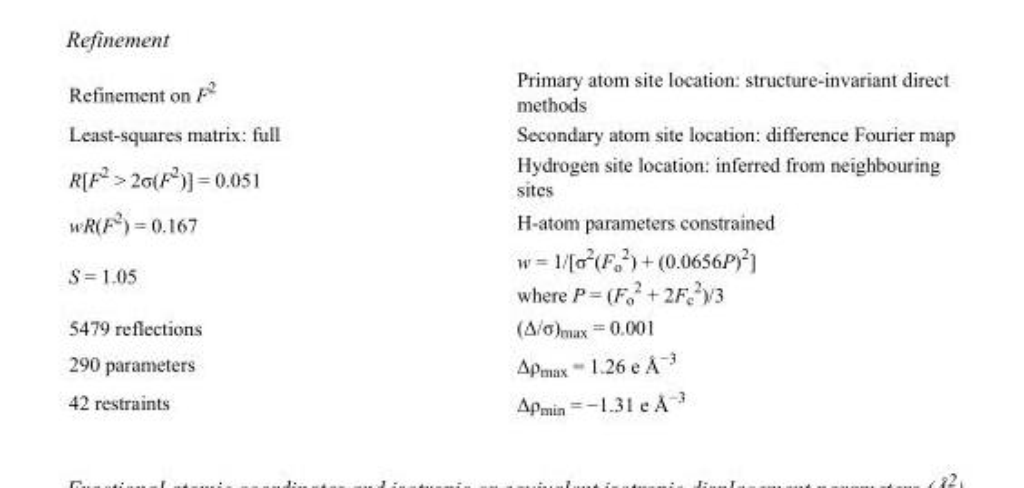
<table><tbody><tr><td>Refinement on F<sup>2</sup></td><td>Primary atom site location: structure-invariant direct methods</td></tr><tr><td>Least-squares matrix: full</td><td>Secondary atom site location: difference Fourier map</td></tr><tr><td>R[F<sup>2</sup> &gt; 2σ(F<sup>2</sup>)] = 0.051</td><td>Hydrogen site location: inferred from neighbouring sites</td></tr><tr><td>wR(F<sup>2</sup>) = 0.167</td><td>H-atom parameters constrained</td></tr><tr><td>S = 1.05</td><td>w = 1/[σ<sup>2</sup>(F<sub>o</sub> <sup>2</sup>) + (0.0656P)<sup>2</sup>] where P = (F<sub>o</sub> <sup>2</sup> + 2F<sub>c</sub> <sup>2</sup>)/3</td></tr><tr><td>5479 reflections</td><td>(Δ/σ)<sub>max</sub> = 0.001</td></tr><tr><td>290 parameters</td><td>Δρ<sub>max</sub> = 1.26 e Å<sup>−3</sup></td></tr><tr><td>42 restraints</td><td>Δρ<sub>min</sub> = −1.31 e Å<sup>−3</sup></td></tr></tbody></table>